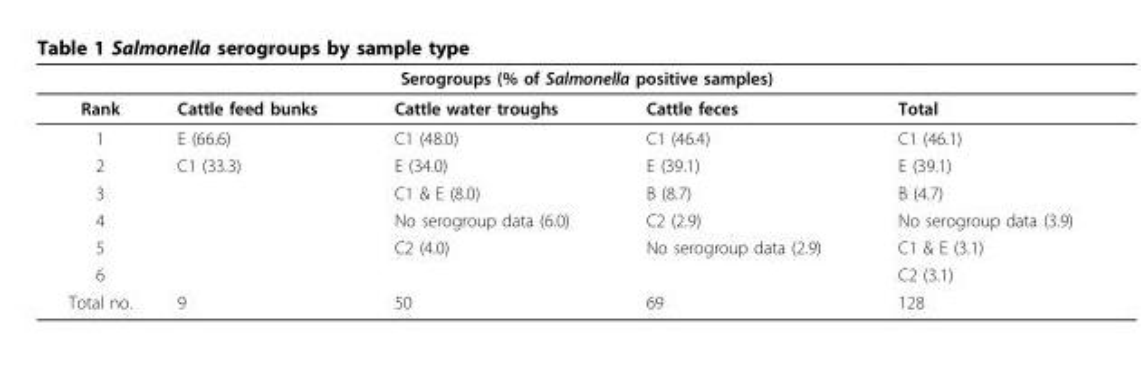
<table><thead><tr><td colspan="5">Serogroups (% of Salmonella positive samples)</td></tr><tr><td>Rank</td><td>Cattle feed bunks</td><td>Cattle water troughs</td><td>Cattle feces</td><td>Total</td></tr></thead><tbody><tr><td>1</td><td>E (66.6)</td><td>C1 (48.0)</td><td>C1 (46.4)</td><td>C1 (46.1)</td></tr><tr><td>2</td><td>C1 (33.3)</td><td>E (34.0)</td><td>E (39.1)</td><td>E (39.1)</td></tr><tr><td>3</td><td></td><td>C1 &amp; E (8.0)</td><td>B (8.7)</td><td>B (4.7)</td></tr><tr><td>4</td><td></td><td>No serogroup data (6.0)</td><td>C2 (2.9)</td><td>No serogroup data (3.9)</td></tr><tr><td>5</td><td></td><td>C2 (4.0)</td><td>No serogroup data (2.9)</td><td>C1 &amp; E (3.1)</td></tr><tr><td>6</td><td></td><td></td><td></td><td>C2 (3.1)</td></tr><tr><td>Total no.</td><td>9</td><td>50</td><td>69</td><td>128</td></tr></tbody></table>